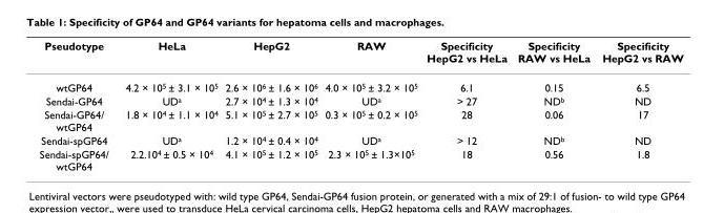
<table><thead><tr><td>Pseudotype</td><td>HeLa</td><td>HepG2</td><td>RAW</td><td>Specificity HepG2 vs HeLa</td><td>Specificity RAW vs HeLa</td><td>Specificity HepG2 vs RAW</td></tr></thead><tbody><tr><td>wtGP64</td><td>4.2 × 10<sup>5</sup> ± 3.1 × 10<sup>5</sup></td><td>2.6 × 10<sup>6</sup> ± 1.6 × 10<sup>6</sup></td><td>4.0 × 10<sup>5</sup> ± 3.2 × 10<sup>5</sup></td><td>6.1</td><td>0.15</td><td>6.5</td></tr><tr><td>Sendai-GP64</td><td>UD<sup>a</sup></td><td>2.7 × 10<sup>4</sup> ± 1.3 × 10<sup>4</sup></td><td>UD<sup>a</sup></td><td>&gt; 27</td><td>ND<sup>b</sup></td><td>ND</td></tr><tr><td>Sendai-GP64/ wtGP64</td><td>1.8 × 10<sup>4</sup> ± 1.1 × 10<sup>4</sup></td><td>5.1 × 10<sup>5</sup> ± 2.7 × 10<sup>5</sup></td><td>0.3 × 10<sup>5</sup> ± 0.2 × 10<sup>5</sup></td><td>28</td><td>0.06</td><td>17</td></tr><tr><td>Sendai-spGP64</td><td>UD<sup>a</sup></td><td>1.2 × 10<sup>4</sup> ± 0.4 × 10<sup>4</sup></td><td>UD<sup>a</sup></td><td>&gt; 12</td><td>ND<sup>b</sup></td><td>ND</td></tr><tr><td>Sendai-spGP64/ wtGP64</td><td>2.2.10<sup>4</sup> ± 0.5 × 10<sup>4</sup></td><td>4.1 × 10<sup>5</sup> ± 1.2 × 10<sup>5</sup></td><td>2.3 × 10<sup>5</sup> ± 1.3×10<sup>5</sup></td><td>18</td><td>0.56</td><td>1.8</td></tr></tbody></table>